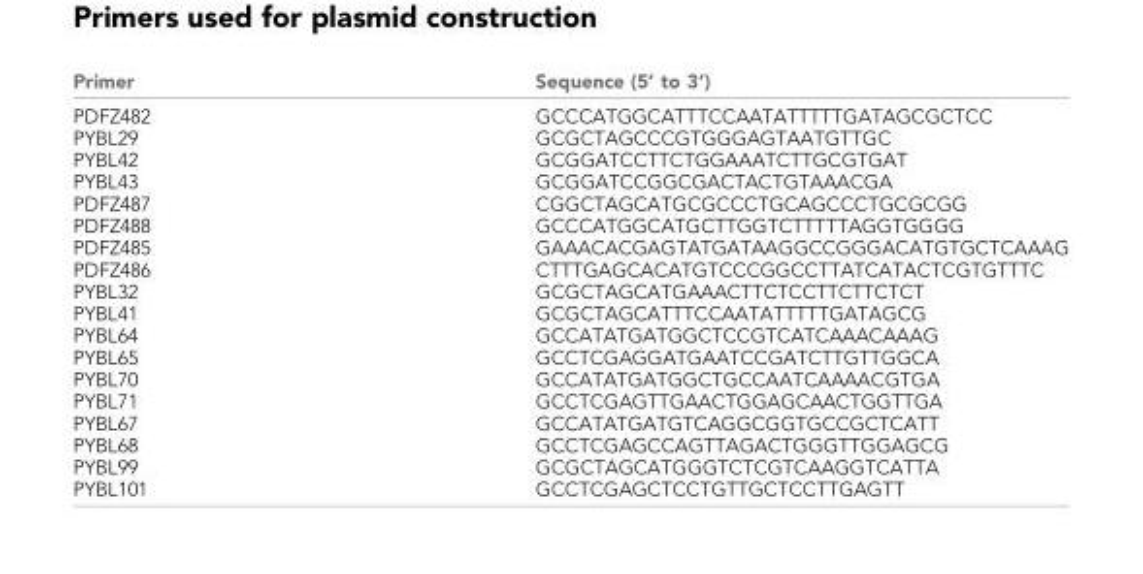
<table><thead><tr><td>Primer</td><td>Sequence (5’ to 3’)</td></tr></thead><tbody><tr><td>PDFZ482 PYBL29 PYBL42 PYBL43 PDFZ487 PDFZ488 PDFZ485 PDFZ486 PYBL32 PYBL41 PYBL64 PYBL65 PYBL70 PYBL71 PYBL67 PYBL68 PYBL99 PYBL101</td><td>GCCCATGGCATTTCCAATATTTTTGATAGCGCTCC GCGCTAGCCCGTGGGAGTAATGTTGC GCGGATCCTTCTGGAAATCTTGCGTGAT GCGGATCCGGCGACTACTGTAAACGA CGGCTAGCATGCGCCCTGCAGCCCTGCGCGG GCCCATGGCATGCTTGGTCTTTTTAGGTGGGG GAAACACGAGTATGATAAGGCCGGGACATGTGCTCAAAG CTTTGAGCACATGTCCCGGCCTTATCATACTCGTGTTTC GCGCTAGCATGAAACTTCTCCTTCTTCTCT GCGCTAGCATTTCCAATATTTTTGATAGCG GCCATATGATGGCTCCGTCATCAAACAAAG GCCTCGAGGATGAATCCGATCTTGTTGGCA GCCATATGATGGCTGCCAATCAAAACGTGA GCCTCGAGTTGAACTGGAGCAACTGGTTGA GCCATATGATGTCAGGCGGTGCCGCTCATT GCCTCGAGCCAGTTAGACTGGGTTGGAGCG GCGCTAGCATGGGTCTCGTCAAGGTCATTA GCCTCGAGCTCCTGTTGCTCCTTGAGTT</td></tr></tbody></table>